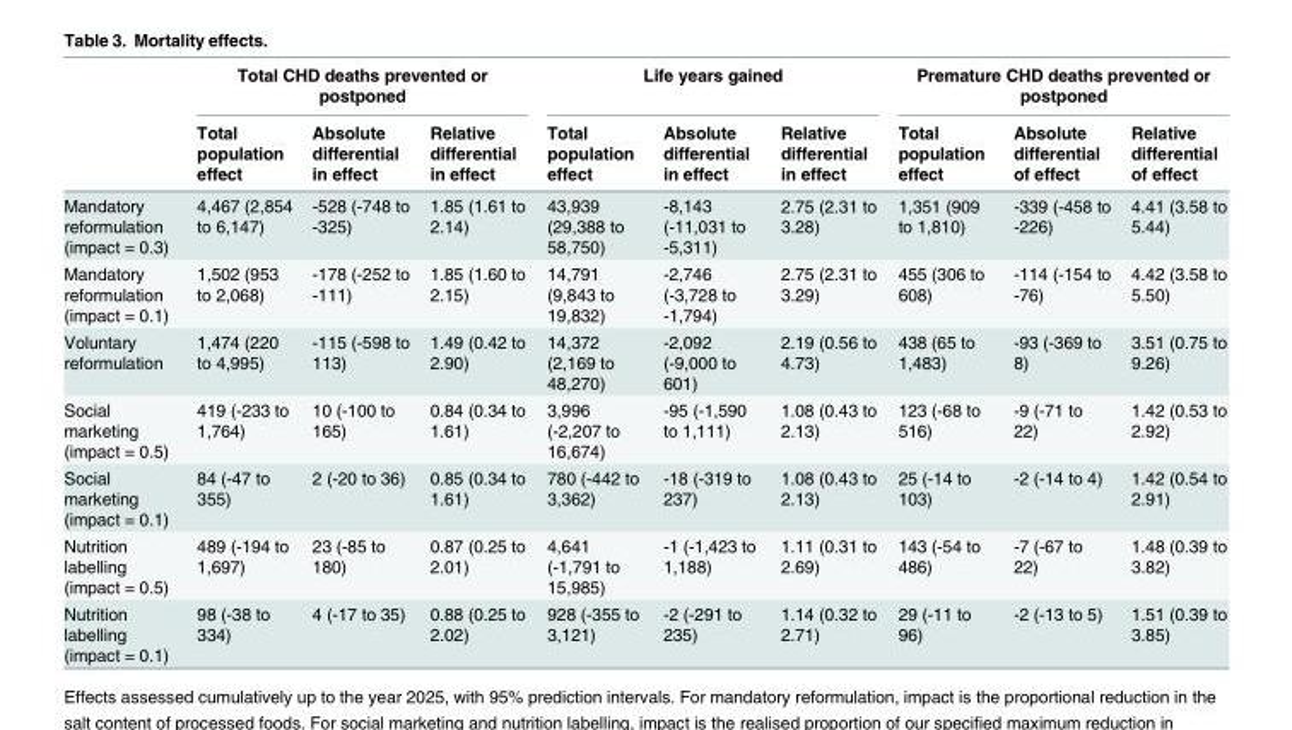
<table><thead><tr><td rowspan="2"></td><td colspan="3">Total CHD deaths prevented or postponed</td><td colspan="3">Life years gained</td><td colspan="3">Premature CHD deaths prevented or postponed</td></tr><tr><td>Total population effect</td><td>Absolute differential in effect</td><td>Relative differential in effect</td><td>Total population effect</td><td>Absolute differential in effect</td><td>Relative differential in effect</td><td>Total population effect</td><td>Absolute differential of effect</td><td>Relative differential of effect</td></tr></thead><tbody><tr><td>Mandatory reformulation (impact = 0.3)</td><td>4,467 (2,854 to 6,147)</td><td>-528 (-748 to -325)</td><td>1.85 (1.61 to 2.14)</td><td>43,939 (29,388 to 58,750)</td><td>-8,143 (-11,031 to -5,311)</td><td>2.75 (2.31 to 3.28)</td><td>1,351 (909 to 1,810)</td><td>-339 (-458 to -226)</td><td>4.41 (3.58 to 5.44)</td></tr><tr><td>Mandatory reformulation (impact = 0.1)</td><td>1,502 (953 to 2,068)</td><td>-178 (-252 to -111)</td><td>1.85 (1.60 to 2.15)</td><td>14,791 (9,843 to 19,832)</td><td>-2,746 (-3,728 to -1,794)</td><td>2.75 (2.31 to 3.29)</td><td>455 (306 to 608)</td><td>-114 (-154 to -76)</td><td>4.42 (3.58 to 5.50)</td></tr><tr><td>Voluntary reformulation</td><td>1,474 (220 to 4,995)</td><td>-115 (-598 to 113)</td><td>1.49 (0.42 to 2.90)</td><td>14,372 (2,169 to 48,270)</td><td>-2,092 (-9,000 to 601)</td><td>2.19 (0.56 to 4.73)</td><td>438 (65 to 1,483)</td><td>-93 (-369 to 8)</td><td>3.51 (0.75 to 9.26)</td></tr><tr><td>Social marketing (impact = 0.5)</td><td>419 (-233 to 1,764)</td><td>10 (-100 to 165)</td><td>0.84 (0.34 to 1.61)</td><td>3,996 (-2,207 to 16,674)</td><td>-95 (-1,590 to 1,111)</td><td>1.08 (0.43 to 2.13)</td><td>123 (-68 to 516)</td><td>-9 (-71 to 22)</td><td>1.42 (0.53 to 2.92)</td></tr><tr><td>Social marketing (impact = 0.1)</td><td>84 (-47 to 355)</td><td>2 (-20 to 36)</td><td>0.85 (0.34 to 1.61)</td><td>780 (-442 to 3,362)</td><td>-18 (-319 to 237)</td><td>1.08 (0.43 to 2.13)</td><td>25 (-14 to 103)</td><td>-2 (-14 to 4)</td><td>1.42 (0.54 to 2.91)</td></tr><tr><td>Nutrition labelling (impact = 0.5)</td><td>489 (-194 to 1,697)</td><td>23 (-85 to 180)</td><td>0.87 (0.25 to 2.01)</td><td>4,641 (-1,791 to 15,985)</td><td>-1 (-1,423 to 1,188)</td><td>1.11 (0.31 to 2.69)</td><td>143 (-54 to 486)</td><td>-7 (-67 to 22)</td><td>1.48 (0.39 to 3.82)</td></tr><tr><td>Nutrition labelling (impact = 0.1)</td><td>98 (-38 to 334)</td><td>4 (-17 to 35)</td><td>0.88 (0.25 to 2.02)</td><td>928 (-355 to 3,121)</td><td>-2 (-291 to 235)</td><td>1.14 (0.32 to 2.71)</td><td>29 (-11 to 96)</td><td>-2 (-13 to 5)</td><td>1.51 (0.39 to 3.85)</td></tr></tbody></table>